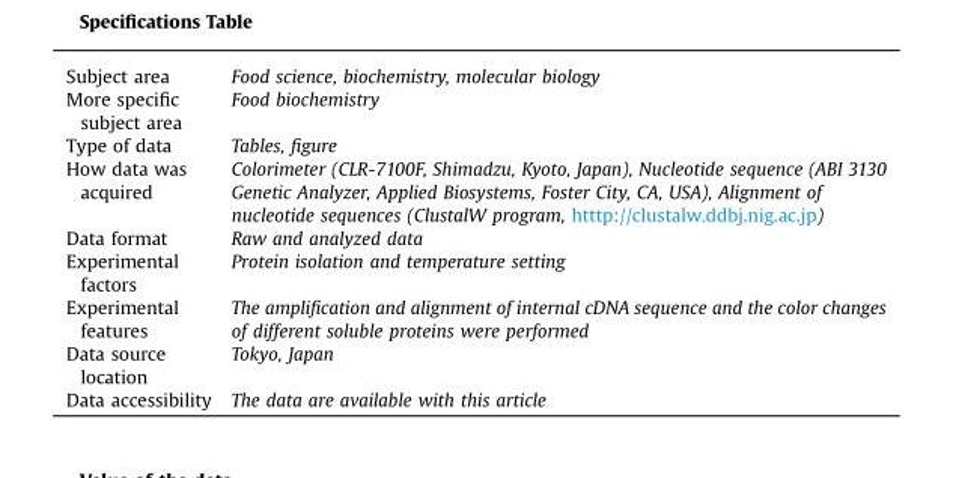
<table><thead><tr><td>Subject area</td><td>Food science, biochemistry, molecular biology</td></tr></thead><tbody><tr><td>More specific subject area</td><td>Food biochemistry</td></tr><tr><td>Type of data</td><td>Tables, figure</td></tr><tr><td>How data was acquired</td><td>Colorimeter (CLR-7100F, Shimadzu, Kyoto, Japan), Nucleotide sequence (ABI 3130 Genetic Analyzer, Applied Biosystems, Foster City, CA, USA), Alignment of nucleotide sequences (ClustalW program, htttp://clustalw.ddbj.nig.ac.jp)</td></tr><tr><td>Data format</td><td>Raw and analyzed data</td></tr><tr><td>Experimental factors</td><td>Protein isolation and temperature setting</td></tr><tr><td>Experimental features</td><td>The amplification and alignment of internal cDNA sequence and the color changes of different soluble proteins were performed</td></tr><tr><td>Data source location</td><td>Tokyo, Japan</td></tr><tr><td>Data accessibility</td><td>The data are available with this article</td></tr></tbody></table>